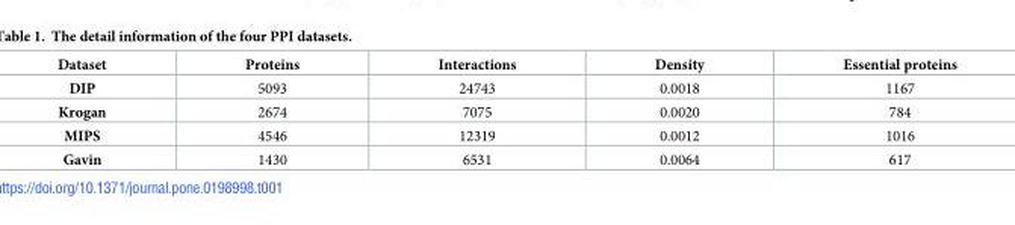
<table><thead><tr><td>Dataset</td><td>Proteins</td><td>Interactions</td><td>Density</td><td>Essential proteins</td></tr></thead><tbody><tr><td>DIP</td><td>5093</td><td>24743</td><td>0.0018</td><td>1167</td></tr><tr><td>Krogan</td><td>2674</td><td>7075</td><td>0.0020</td><td>784</td></tr><tr><td>MIPS</td><td>4546</td><td>12319</td><td>0.0012</td><td>1016</td></tr><tr><td>Gavin</td><td>1430</td><td>6531</td><td>0.0064</td><td>617</td></tr></tbody></table>